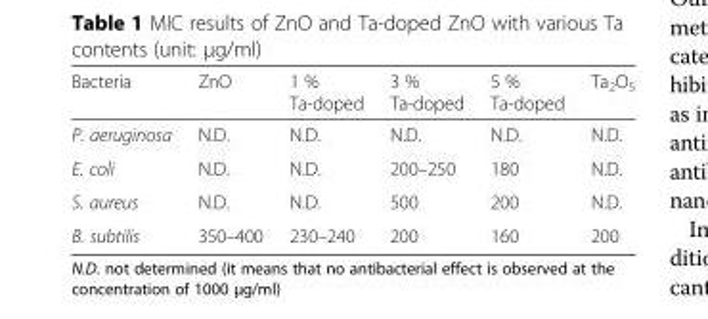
<table><thead><tr><td>Bacteria</td><td>ZnO</td><td>1 % Ta-doped</td><td>3 % Ta-doped</td><td>5 % Ta-doped</td><td>Ta<sub>2</sub>O<sub>5</sub></td></tr></thead><tbody><tr><td>P. aeruginosa</td><td>N.D.</td><td>N.D.</td><td>N.D.</td><td>N.D.</td><td>N.D.</td></tr><tr><td>E. coli</td><td>N.D.</td><td>N.D.</td><td>200–250</td><td>180</td><td>N.D.</td></tr><tr><td>S. aureus</td><td>N.D.</td><td>N.D.</td><td>500</td><td>200</td><td>N.D.</td></tr><tr><td>B. subtilis</td><td>350–400</td><td>230–240</td><td>200</td><td>160</td><td>200</td></tr></tbody></table>